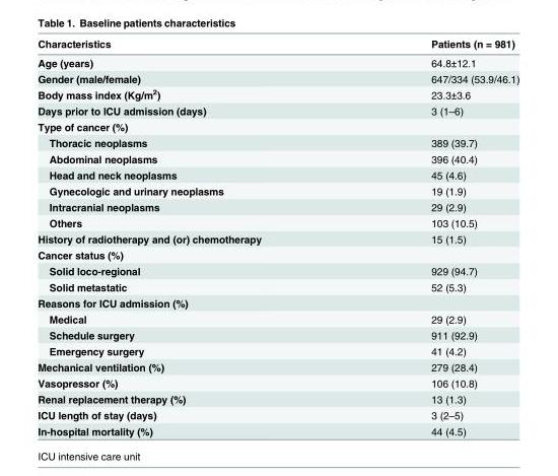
<table><thead><tr><td>Characteristics</td><td>Patients (n = 981)</td></tr></thead><tbody><tr><td>Age (years)</td><td>64.8±12.1</td></tr><tr><td>Gender (male/female)</td><td>647/334 (53.9/46.1)</td></tr><tr><td>Body mass index (Kg/m<sup>2</sup>)</td><td>23.3±3.6</td></tr><tr><td>Days prior to ICU admission (days)</td><td>3 (1–6)</td></tr><tr><td colspan="2">Type of cancer (%)</td></tr><tr><td>Thoracic neoplasms</td><td>389 (39.7)</td></tr><tr><td>Abdominal neoplasms</td><td>396 (40.4)</td></tr><tr><td>Head and neck neoplasms</td><td>45 (4.6)</td></tr><tr><td>Gynecologic and urinary neoplasms</td><td>19 (1.9)</td></tr><tr><td>Intracranial neoplasms</td><td>29 (2.9)</td></tr><tr><td>Others</td><td>103 (10.5)</td></tr><tr><td>History of radiotherapy and (or) chemotherapy</td><td>15 (1.5)</td></tr><tr><td colspan="2">Cancer status (%)</td></tr><tr><td>Solid loco-regional</td><td>929 (94.7)</td></tr><tr><td>Solid metastatic</td><td>52 (5.3)</td></tr><tr><td colspan="2">Reasons for ICU admission (%)</td></tr><tr><td>Medical</td><td>29 (2.9)</td></tr><tr><td>Schedule surgery</td><td>911 (92.9)</td></tr><tr><td>Emergency surgery</td><td>41 (4.2)</td></tr><tr><td>Mechanical ventilation (%)</td><td>279 (28.4)</td></tr><tr><td>Vasopressor (%)</td><td>106 (10.8)</td></tr><tr><td>Renal replacement therapy (%)</td><td>13 (1.3)</td></tr><tr><td>ICU length of stay (days)</td><td>3 (2–5)</td></tr><tr><td>In-hospital mortality (%)</td><td>44 (4.5)</td></tr></tbody></table>